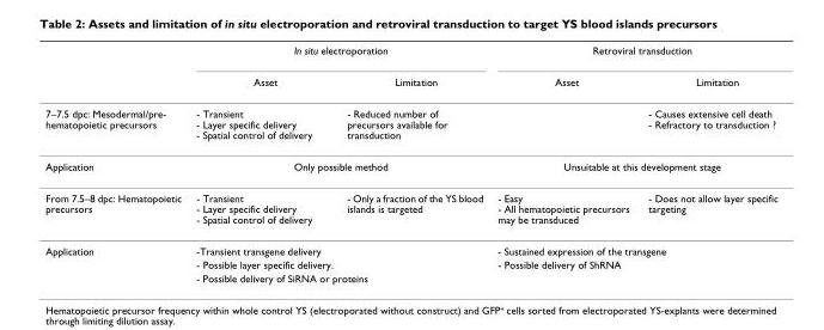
<table><thead><tr><td rowspan="2"></td><td colspan="2">In situ electroporation</td><td colspan="2">Retroviral transduction</td></tr><tr><td>Asset</td><td>Limitation</td><td>Asset</td><td>Limitation</td></tr></thead><tbody><tr><td>7–7.5 dpc: Mesodermal/pre- hematopoietic precursors</td><td>- Transient - Layer specific delivery - Spatial control of delivery</td><td>- Reduced number of precursors available for transduction</td><td></td><td>- Causes extensive cell death - Refractory to transduction ?</td></tr><tr><td>Application</td><td colspan="2">Only possible method</td><td colspan="2">Unsuitable at this development stage</td></tr><tr><td>From 7.5–8 dpc: Hematopoietic precursors</td><td>- Transient - Layer specific delivery - Spatial control of delivery</td><td>- Only a fraction of the YS blood islands is targeted</td><td>- Easy - All hematopoietic precursors may be transduced</td><td>- Does not allow layer specific targeting</td></tr><tr><td rowspan="3">Application</td><td colspan="2">-Transient transgene delivery</td><td colspan="2">- Sustained expression of the transgene</td></tr><tr><td colspan="2">- Possible layer specific delivery.</td><td colspan="2">- Possible delivery of ShRNA</td></tr><tr><td colspan="2">- Possible delivery of SiRNA or proteins</td><td></td><td></td></tr></tbody></table>